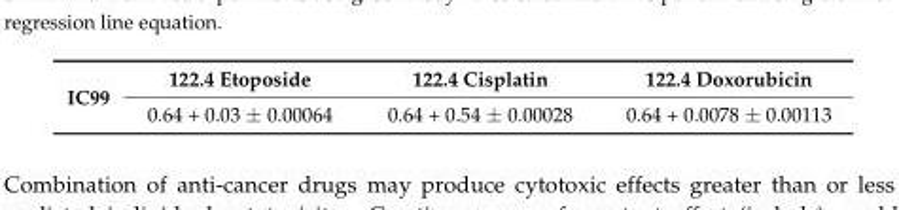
<table><tbody><tr><td rowspan="2">IC99</td><td>122.4 Etoposide</td><td>122.4 Cisplatin</td><td>122.4 Doxorubicin</td></tr><tr><td>0.64 + 0.03 ± 0.00064</td><td>0.64 + 0.54 ± 0.00028</td><td>0.64 + 0.0078 ± 0.00113</td></tr></tbody></table>